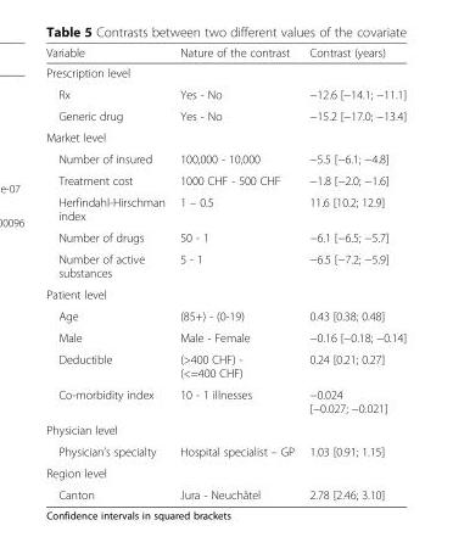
<table><thead><tr><td>Variable</td><td>Nature of the contrast</td><td>Contrast (years)</td></tr></thead><tbody><tr><td colspan="3">Prescription level</td></tr><tr><td>Rx</td><td>Yes - No</td><td>−12.6 [−14.1; −11.1]</td></tr><tr><td>Generic drug</td><td>Yes - No</td><td>−15.2 [−17.0; −13.4]</td></tr><tr><td colspan="3">Market level</td></tr><tr><td>Number of insured</td><td>100,000 - 10,000</td><td>−5.5 [−6.1; −4.8]</td></tr><tr><td>Treatment cost</td><td>1000 CHF - 500 CHF</td><td>−1.8 [−2.0; −1.6]</td></tr><tr><td>Herfindahl-Hirschman index</td><td>1 – 0.5</td><td>11.6 [10.2; 12.9]</td></tr><tr><td>Number of drugs</td><td>50 - 1</td><td>−6.1 [−6.5; −5.7]</td></tr><tr><td>Number of active substances</td><td>5 - 1</td><td>−6.5 [−7.2; −5.9]</td></tr><tr><td colspan="3">Patient level</td></tr><tr><td>Age</td><td>(85+) - (0-19)</td><td>0.43 [0.38; 0.48]</td></tr><tr><td>Male</td><td>Male - Female</td><td>−0.16 [−0.18; −0.14]</td></tr><tr><td>Deductible</td><td>(&gt;400 CHF) - (&lt;=400 CHF)</td><td>0.24 [0.21; 0.27]</td></tr><tr><td>Co-morbidity index</td><td>10 - 1 illnesses</td><td>−0.024 [−0.027; −0.021]</td></tr><tr><td colspan="3">Physician level</td></tr><tr><td>Physician’s specialty</td><td>Hospital specialist – GP</td><td>1.03 [0.91; 1.15]</td></tr><tr><td colspan="3">Region level</td></tr><tr><td>Canton</td><td>Jura - Neuchâtel</td><td>2.78 [2.46; 3.10]</td></tr></tbody></table>